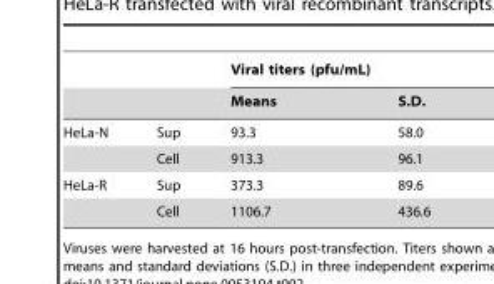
<table><thead><tr><td rowspan="2"></td><td rowspan="2"></td><td colspan="2">Viral titers (pfu/mL)</td></tr><tr><td>Means</td><td>S.D.</td></tr></thead><tbody><tr><td rowspan="2">HeLa-N</td><td>Sup</td><td>93.3</td><td>58.0</td></tr><tr><td>Cell</td><td>913.3</td><td>96.1</td></tr><tr><td rowspan="2">HeLa-R</td><td>Sup</td><td>373.3</td><td>89.6</td></tr><tr><td>Cell</td><td>1106.7</td><td>436.6</td></tr></tbody></table>